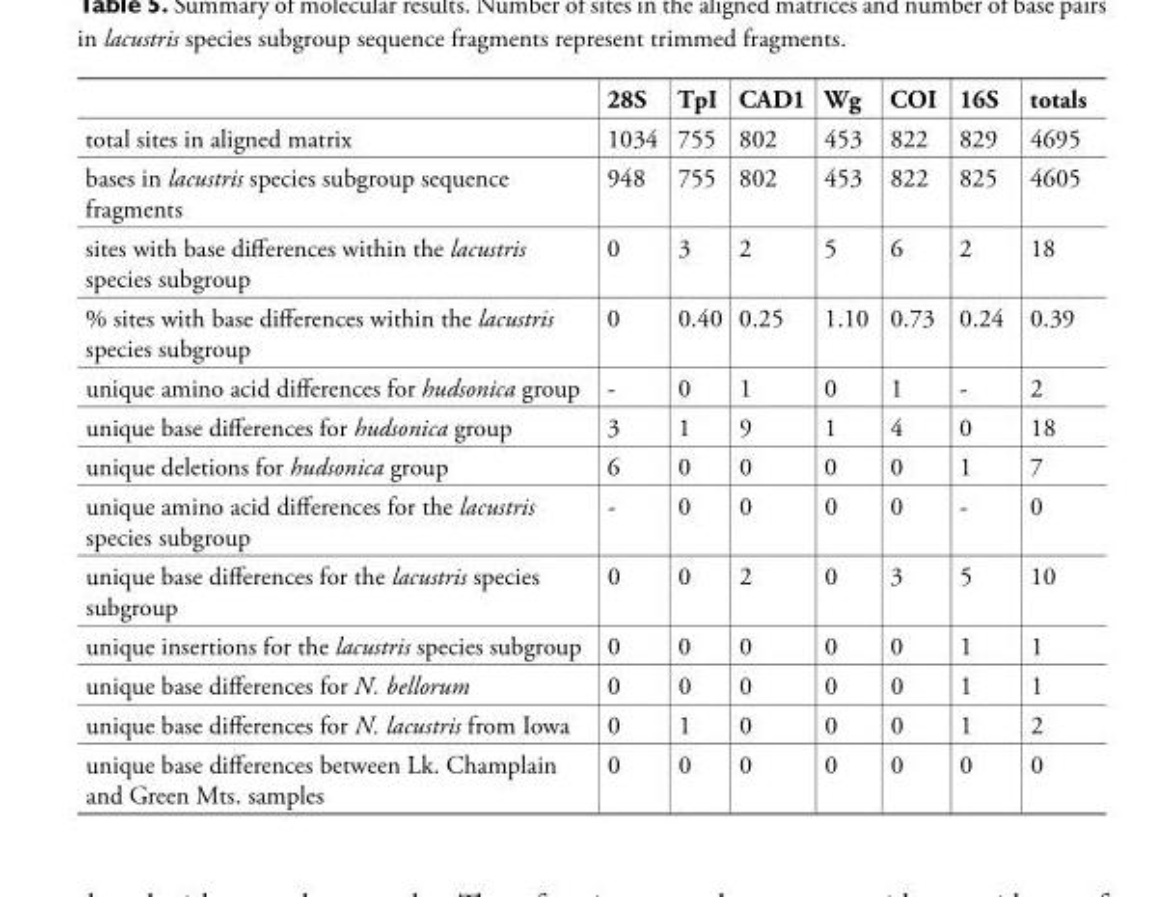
<table><thead><tr><td></td><td>28S</td><td>TpI</td><td>CAD1</td><td>Wg</td><td>COI</td><td>16S</td><td>totals</td></tr></thead><tbody><tr><td>total sites in aligned matrix</td><td>1034</td><td>755</td><td>802</td><td>453</td><td>822</td><td>829</td><td>4695</td></tr><tr><td>bases in lacustris species subgroup sequence fragments</td><td>948</td><td>755</td><td>802</td><td>453</td><td>822</td><td>825</td><td>4605</td></tr><tr><td>sites with base differences within the lacustris species subgroup</td><td>0</td><td>3</td><td>2</td><td>5</td><td>6</td><td>2</td><td>18</td></tr><tr><td>% sites with base differences within the lacustris species subgroup</td><td>0</td><td>0.40</td><td>0.25</td><td>1.10</td><td>0.73</td><td>0.24</td><td>0.39</td></tr><tr><td>unique amino acid differences for hudsonica group</td><td>-</td><td>0</td><td>1</td><td>0</td><td>1</td><td>-</td><td>2</td></tr><tr><td>unique base differences for hudsonica group</td><td>3</td><td>1</td><td>9</td><td>1</td><td>4</td><td>0</td><td>18</td></tr><tr><td>unique deletions for hudsonica group</td><td>6</td><td>0</td><td>0</td><td>0</td><td>0</td><td>1</td><td>7</td></tr><tr><td>unique amino acid differences for the lacustris species subgroup</td><td>-</td><td>0</td><td>0</td><td>0</td><td>0</td><td>-</td><td>0</td></tr><tr><td>unique base differences for the lacustris species subgroup</td><td>0</td><td>0</td><td>2</td><td>0</td><td>3</td><td>5</td><td>10</td></tr><tr><td>unique insertions for the lacustris species subgroup</td><td>0</td><td>0</td><td>0</td><td>0</td><td>0</td><td>1</td><td>1</td></tr><tr><td>unique base differences for N. bellorum</td><td>0</td><td>0</td><td>0</td><td>0</td><td>0</td><td>1</td><td>1</td></tr><tr><td>unique base differences for N. lacustris from Iowa</td><td>0</td><td>1</td><td>0</td><td>0</td><td>0</td><td>1</td><td>2</td></tr><tr><td>unique base differences between Lk. Champlain and Green Mts. samples</td><td>0</td><td>0</td><td>0</td><td>0</td><td>0</td><td>0</td><td>0</td></tr></tbody></table>